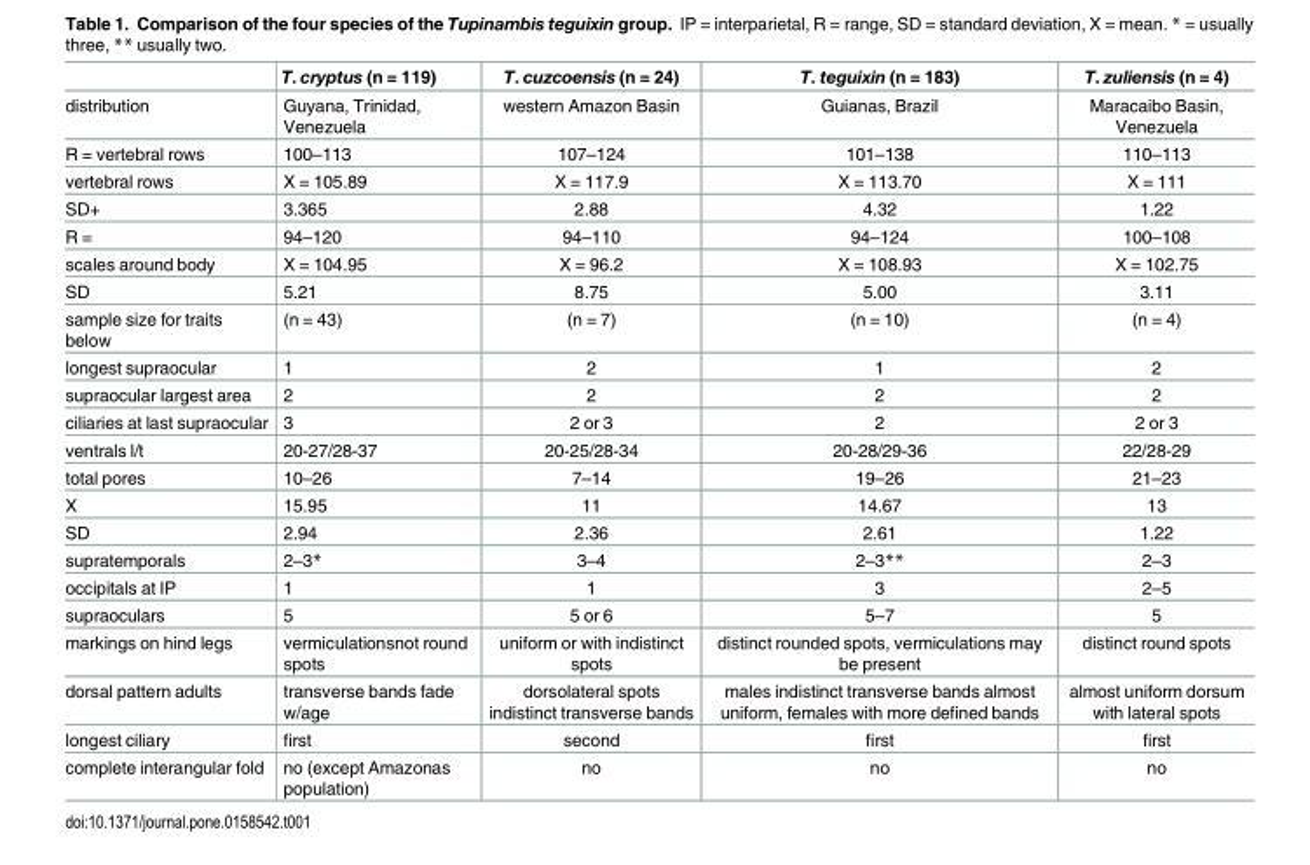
<table><thead><tr><td></td><td>T. cryptus (n = 119)</td><td>T. cuzcoensis (n = 24)</td><td>T. teguixin (n = 183)</td><td>T. zuliensis (n = 4)</td></tr></thead><tbody><tr><td>distribution</td><td>Guyana, Trinidad, Venezuela</td><td>western Amazon Basin</td><td>Guianas, Brazil</td><td>Maracaibo Basin, Venezuela</td></tr><tr><td>R = vertebral rows</td><td>100–113</td><td>107–124</td><td>101–138</td><td>110–113</td></tr><tr><td>vertebral rows</td><td>X = 105.89</td><td>X = 117.9</td><td>X = 113.70</td><td>X = 111</td></tr><tr><td>SD+</td><td>3.365</td><td>2.88</td><td>4.32</td><td>1.22</td></tr><tr><td>R =</td><td>94–120</td><td>94–110</td><td>94–124</td><td>100–108</td></tr><tr><td>scales around body</td><td>X = 104.95</td><td>X = 96.2</td><td>X = 108.93</td><td>X = 102.75</td></tr><tr><td>SD</td><td>5.21</td><td>8.75</td><td>5.00</td><td>3.11</td></tr><tr><td>sample size for traits below</td><td>(n = 43)</td><td>(n = 7)</td><td>(n = 10)</td><td>(n = 4)</td></tr><tr><td>longest supraocular</td><td>1</td><td>2</td><td>1</td><td>2</td></tr><tr><td>supraocular largest area</td><td>2</td><td>2</td><td>2</td><td>2</td></tr><tr><td>ciliaries at last supraocular</td><td>3</td><td>2 or 3</td><td>2</td><td>2 or 3</td></tr><tr><td>ventrals l/t</td><td>20-27/28-37</td><td>20-25/28-34</td><td>20-28/29-36</td><td>22/28-29</td></tr><tr><td>total pores</td><td>10–26</td><td>7–14</td><td>19–26</td><td>21–23</td></tr><tr><td>X</td><td>15.95</td><td>11</td><td>14.67</td><td>13</td></tr><tr><td>SD</td><td>2.94</td><td>2.36</td><td>2.61</td><td>1.22</td></tr><tr><td>supratemporals</td><td>2–3*</td><td>3–4</td><td>2–3**</td><td>2–3</td></tr><tr><td>occipitals at IP</td><td>1</td><td>1</td><td>3</td><td>2–5</td></tr><tr><td>supraoculars</td><td>5</td><td>5 or 6</td><td>5–7</td><td>5</td></tr><tr><td>markings on hind legs</td><td>vermiculationsnot round spots</td><td>uniform or with indistinct spots</td><td>distinct rounded spots, vermiculations may be present</td><td>distinct round spots</td></tr><tr><td>dorsal pattern adults</td><td>transverse bands fade w/age</td><td>dorsolateral spots indistinct transverse bands</td><td>males indistinct transverse bands almost uniform, females with more defined bands</td><td>almost uniform dorsum with lateral spots</td></tr><tr><td>longest ciliary</td><td>first</td><td>second</td><td>first</td><td>first</td></tr><tr><td>complete interangular fold</td><td>no (except Amazonas population)</td><td>no</td><td>no</td><td>no</td></tr></tbody></table>